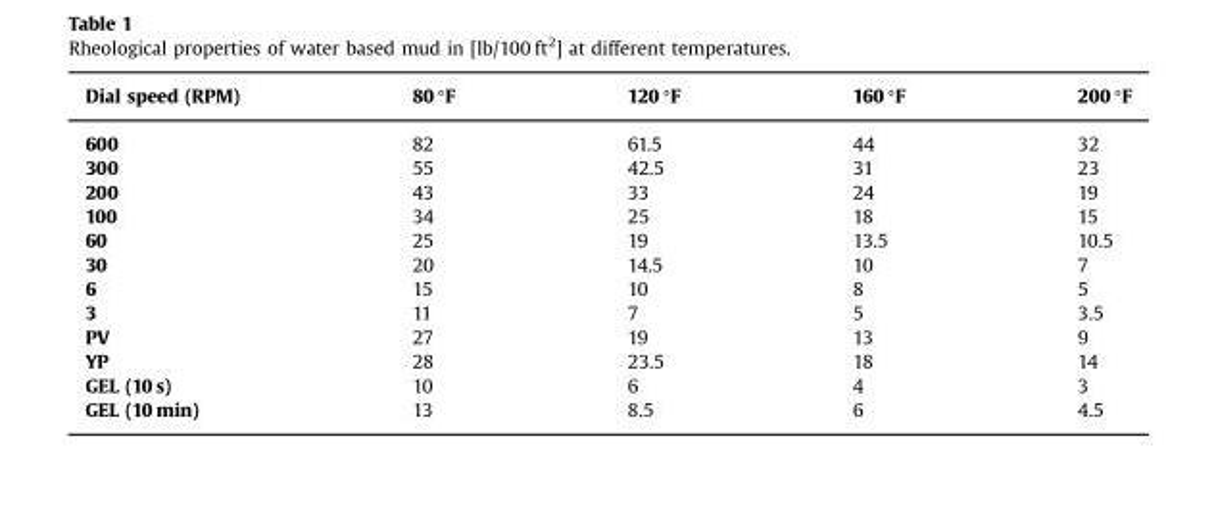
<table><thead><tr><td>Dial speed (RPM)</td><td>80 °F</td><td>120 °F</td><td>160 °F</td><td>200 °F</td></tr></thead><tbody><tr><td>600</td><td>82</td><td>61.5</td><td>44</td><td>32</td></tr><tr><td>300</td><td>55</td><td>42.5</td><td>31</td><td>23</td></tr><tr><td>200</td><td>43</td><td>33</td><td>24</td><td>19</td></tr><tr><td>100</td><td>34</td><td>25</td><td>18</td><td>15</td></tr><tr><td>60</td><td>25</td><td>19</td><td>13.5</td><td>10.5</td></tr><tr><td>30</td><td>20</td><td>14.5</td><td>10</td><td>7</td></tr><tr><td>6</td><td>15</td><td>10</td><td>8</td><td>5</td></tr><tr><td>3</td><td>11</td><td>7</td><td>5</td><td>3.5</td></tr><tr><td>PV</td><td>27</td><td>19</td><td>13</td><td>9</td></tr><tr><td>YP</td><td>28</td><td>23.5</td><td>18</td><td>14</td></tr><tr><td>GEL (10 s)</td><td>10</td><td>6</td><td>4</td><td>3</td></tr><tr><td>GEL (10 min)</td><td>13</td><td>8.5</td><td>6</td><td>4.5</td></tr></tbody></table>